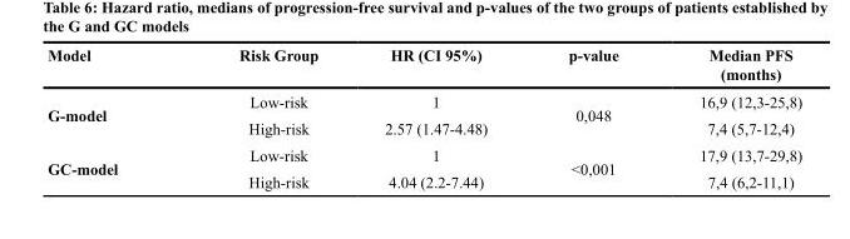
<table><thead><tr><td>Model</td><td>Risk Group</td><td>HR (CI 95%)</td><td>p-value</td><td>Median PFS (months)</td></tr></thead><tbody><tr><td rowspan="2">G-model</td><td>Low-risk</td><td>1</td><td rowspan="2">0,048</td><td>16,9 (12,3-25,8)</td></tr><tr><td>High-risk</td><td>2.57 (1.47-4.48)</td><td>7,4 (5,7-12,4)</td></tr><tr><td rowspan="2">GC-model</td><td>Low-risk</td><td>1</td><td rowspan="2">&lt;0,001</td><td>17,9 (13,7-29,8)</td></tr><tr><td>High-risk</td><td>4.04 (2.2-7.44)</td><td>7,4 (6,2-11,1)</td></tr></tbody></table>